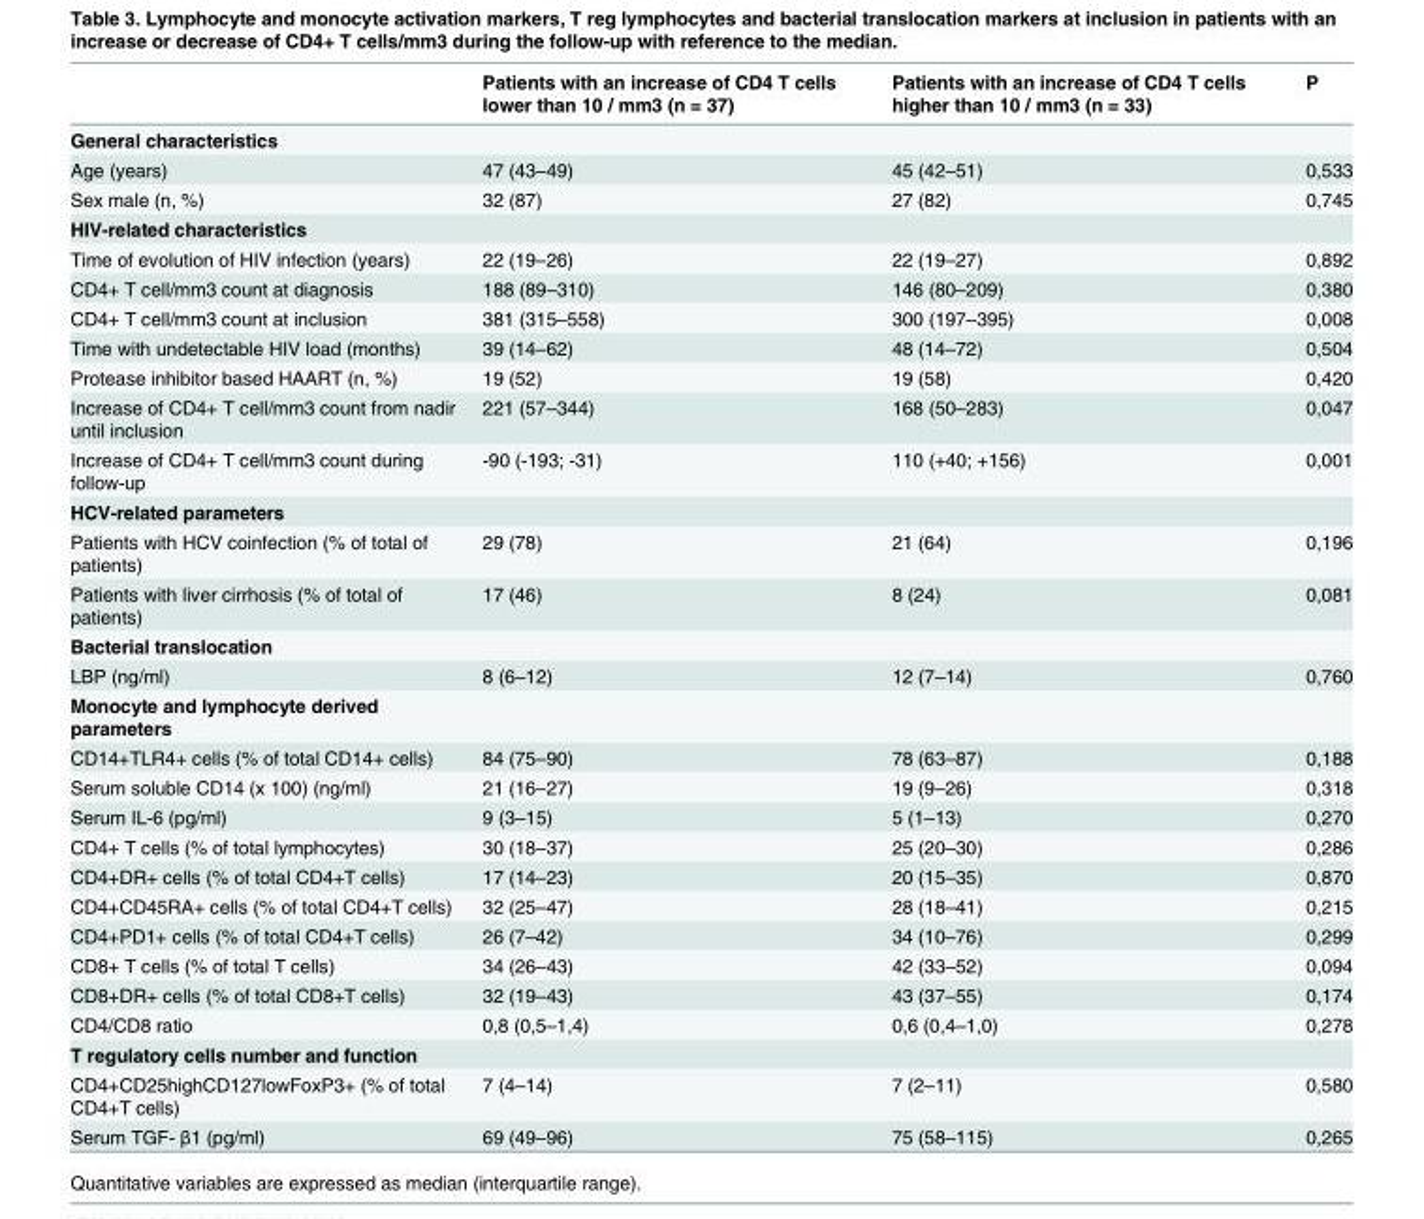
<table><thead><tr><td></td><td>Patients with an increase of CD4 T cells lower than 10 / mm3 (n = 37)</td><td>Patients with an increase of CD4 T cells higher than 10 / mm3 (n = 33)</td><td>P</td></tr></thead><tbody><tr><td colspan="4">General characteristics</td></tr><tr><td>Age (years)</td><td>47 (43–49)</td><td>45 (42–51)</td><td>0,533</td></tr><tr><td>Sex male (n, %)</td><td>32 (87)</td><td>27 (82)</td><td>0,745</td></tr><tr><td colspan="4">HIV-related characteristics</td></tr><tr><td>Time of evolution of HIV infection (years)</td><td>22 (19–26)</td><td>22 (19–27)</td><td>0,892</td></tr><tr><td>CD4+ T cell/mm3 count at diagnosis</td><td>188 (89–310)</td><td>146 (80–209)</td><td>0,380</td></tr><tr><td>CD4+ T cell/mm3 count at inclusion</td><td>381 (315–558)</td><td>300 (197–395)</td><td>0,008</td></tr><tr><td>Time with undetectable HIV load (months)</td><td>39 (14–62)</td><td>48 (14–72)</td><td>0,504</td></tr><tr><td>Protease inhibitor based HAART (n, %)</td><td>19 (52)</td><td>19 (58)</td><td>0,420</td></tr><tr><td>Increase of CD4+ T cell/mm3 count from nadir until inclusion</td><td>221 (57–344)</td><td>168 (50–283)</td><td>0,047</td></tr><tr><td>Increase of CD4+ T cell/mm3 count during follow-up</td><td>-90 (-193; -31)</td><td>110 (+40; +156)</td><td>0,001</td></tr><tr><td colspan="4">HCV-related parameters</td></tr><tr><td>Patients with HCV coinfection (% of total of patients)</td><td>29 (78)</td><td>21 (64)</td><td>0,196</td></tr><tr><td>Patients with liver cirrhosis (% of total of patients)</td><td>17 (46)</td><td>8 (24)</td><td>0,081</td></tr><tr><td colspan="4">Bacterial translocation</td></tr><tr><td>LBP (ng/ml)</td><td>8 (6–12)</td><td>12 (7–14)</td><td>0,760</td></tr><tr><td colspan="4">Monocyte and lymphocyte derived parameters</td></tr><tr><td>CD14+TLR4+ cells (% of total CD14+ cells)</td><td>84 (75–90)</td><td>78 (63–87)</td><td>0,188</td></tr><tr><td>Serum soluble CD14 (x 100) (ng/ml)</td><td>21 (16–27)</td><td>19 (9–26)</td><td>0,318</td></tr><tr><td>Serum IL-6 (pg/ml)</td><td>9 (3–15)</td><td>5 (1–13)</td><td>0,270</td></tr><tr><td>CD4+ T cells (% of total lymphocytes)</td><td>30 (18–37)</td><td>25 (20–30)</td><td>0,286</td></tr><tr><td>CD4+DR+ cells (% of total CD4+T cells)</td><td>17 (14–23)</td><td>20 (15–35)</td><td>0,870</td></tr><tr><td>CD4+CD45RA+ cells (% of total CD4+T cells)</td><td>32 (25–47)</td><td>28 (18–41)</td><td>0,215</td></tr><tr><td>CD4+PD1+ cells (% of total CD4+T cells)</td><td>26 (7–42)</td><td>34 (10–76)</td><td>0,299</td></tr><tr><td>CD8+ T cells (% of total T cells)</td><td>34 (26–43)</td><td>42 (33–52)</td><td>0,094</td></tr><tr><td>CD8+DR+ cells (% of total CD8+T cells)</td><td>32 (19–43)</td><td>43 (37–55)</td><td>0,174</td></tr><tr><td>CD4/CD8 ratio</td><td>0,8 (0,5–1,4)</td><td>0,6 (0,4–1,0)</td><td>0,278</td></tr><tr><td colspan="4">T regulatory cells number and function</td></tr><tr><td>CD4+CD25highCD127lowFoxP3+ (% of total CD4+T cells)</td><td>7 (4–14)</td><td>7 (2–11)</td><td>0,580</td></tr><tr><td>Serum TGF- β1 (pg/ml)</td><td>69 (49–96)</td><td>75 (58–115)</td><td>0,265</td></tr></tbody></table>